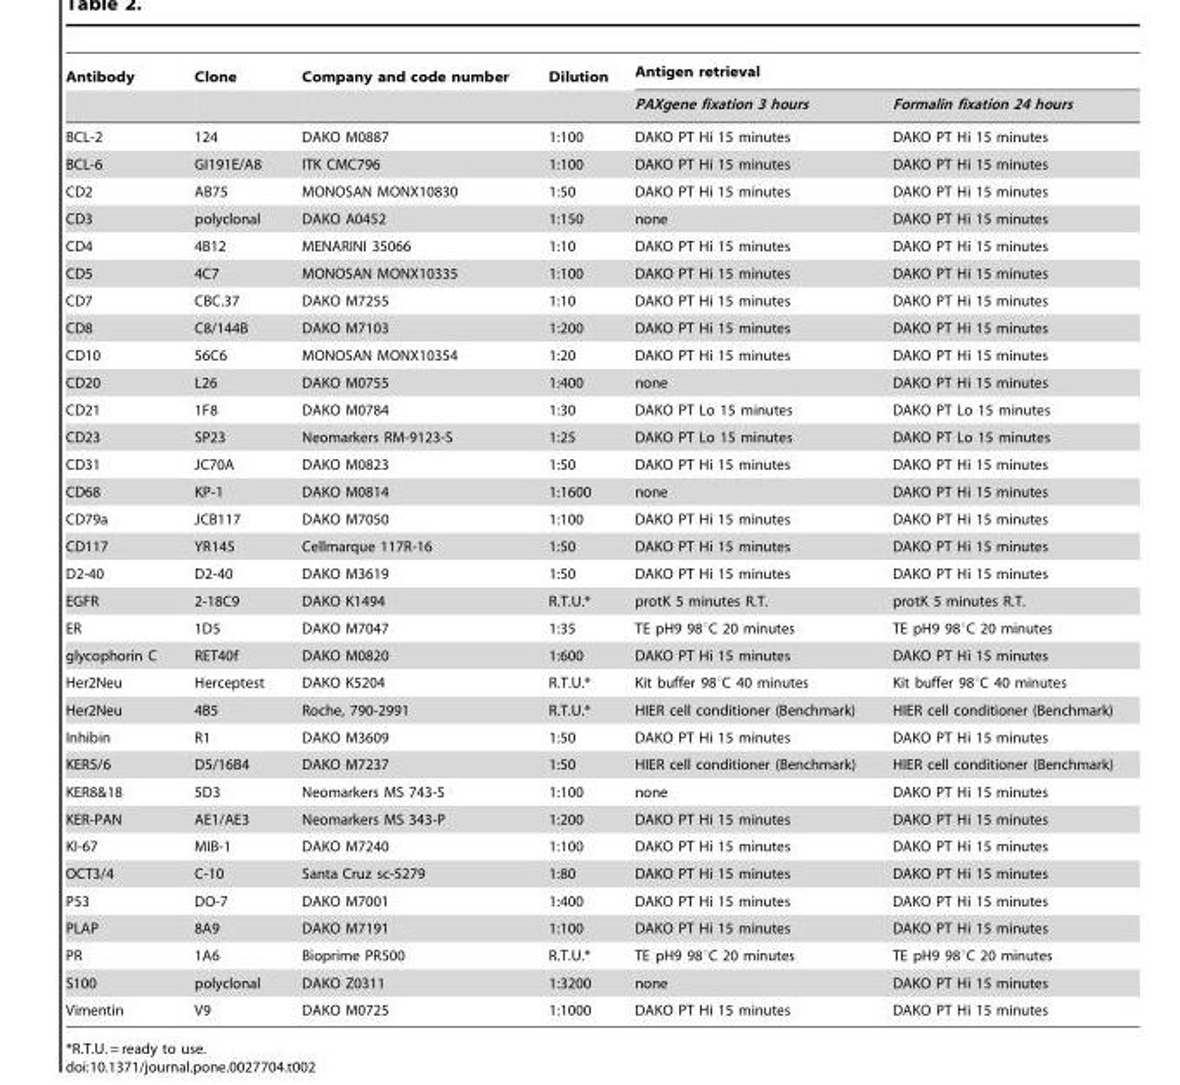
<table><thead><tr><td rowspan="2">Antibody</td><td rowspan="2">Clone</td><td rowspan="2">Company and code number</td><td rowspan="2">Dilution</td><td colspan="2">Antigen retrieval</td></tr><tr><td>PAXgene fixation 3 hours</td><td>Formalin fixation 24 hours</td></tr></thead><tbody><tr><td>BCL-2</td><td>124</td><td>DAKO M0887</td><td>1:100</td><td>DAKO PT Hi 15 minutes</td><td>DAKO PT Hi 15 minutes</td></tr><tr><td>BCL-6</td><td>GI191E/A8</td><td>ITK CMC796</td><td>1:100</td><td>DAKO PT Hi 15 minutes</td><td>DAKO PT Hi 15 minutes</td></tr><tr><td>CD2</td><td>AB75</td><td>MONOSAN MONX10830</td><td>1:50</td><td>DAKO PT Hi 15 minutes</td><td>DAKO PT Hi 15 minutes</td></tr><tr><td>CD3</td><td>polyclonal</td><td>DAKO A0452</td><td>1:150</td><td>none</td><td>DAKO PT Hi 15 minutes</td></tr><tr><td>CD4</td><td>4B12</td><td>MENARINI 35066</td><td>1:10</td><td>DAKO PT Hi 15 minutes</td><td>DAKO PT Hi 15 minutes</td></tr><tr><td>CD5</td><td>4C7</td><td>MONOSAN MONX10335</td><td>1:100</td><td>DAKO PT Hi 15 minutes</td><td>DAKO PT Hi 15 minutes</td></tr><tr><td>CD7</td><td>CBC.37</td><td>DAKO M7255</td><td>1:10</td><td>DAKO PT Hi 15 minutes</td><td>DAKO PT Hi 15 minutes</td></tr><tr><td>CD8</td><td>C8/144B</td><td>DAKO M7103</td><td>1:200</td><td>DAKO PT Hi 15 minutes</td><td>DAKO PT Hi 15 minutes</td></tr><tr><td>CD10</td><td>56C6</td><td>MONOSAN MONX10354</td><td>1:20</td><td>DAKO PT Hi 15 minutes</td><td>DAKO PT Hi 15 minutes</td></tr><tr><td>CD20</td><td>L26</td><td>DAKO M0755</td><td>1:400</td><td>none</td><td>DAKO PT Hi 15 minutes</td></tr><tr><td>CD21</td><td>1F8</td><td>DAKO M0784</td><td>1:30</td><td>DAKO PT Lo 15 minutes</td><td>DAKO PT Lo 15 minutes</td></tr><tr><td>CD23</td><td>SP23</td><td>Neomarkers RM-9123-S</td><td>1:25</td><td>DAKO PT Lo 15 minutes</td><td>DAKO PT Lo 15 minutes</td></tr><tr><td>CD31</td><td>JC70A</td><td>DAKO M0823</td><td>1:50</td><td>DAKO PT Hi 15 minutes</td><td>DAKO PT Hi 15 minutes</td></tr><tr><td>CD68</td><td>KP-1</td><td>DAKO M0814</td><td>1:1600</td><td>none</td><td>DAKO PT Hi 15 minutes</td></tr><tr><td>CD79a</td><td>JCB117</td><td>DAKO M7050</td><td>1:100</td><td>DAKO PT Hi 15 minutes</td><td>DAKO PT Hi 15 minutes</td></tr><tr><td>CD117</td><td>YR145</td><td>Cellmarque 117R-16</td><td>1:50</td><td>DAKO PT Hi 15 minutes</td><td>DAKO PT Hi 15 minutes</td></tr><tr><td>D2-40</td><td>D2-40</td><td>DAKO M3619</td><td>1:50</td><td>DAKO PT Hi 15 minutes</td><td>DAKO PT Hi 15 minutes</td></tr><tr><td>EGFR</td><td>2-18C9</td><td>DAKO K1494</td><td>R.T.U.*</td><td>protK 5 minutes R.T.</td><td>protK 5 minutes R.T.</td></tr><tr><td>ER</td><td>1D5</td><td>DAKO M7047</td><td>1:35</td><td>TE pH9 98°C 20 minutes</td><td>TE pH9 98°C 20 minutes</td></tr><tr><td>glycophorin C</td><td>RET40f</td><td>DAKO M0820</td><td>1:600</td><td>DAKO PT Hi 15 minutes</td><td>DAKO PT Hi 15 minutes</td></tr><tr><td>Her2Neu</td><td>Herceptest</td><td>DAKO K5204</td><td>R.T.U.*</td><td>Kit buffer 98°C 40 minutes</td><td>Kit buffer 98°C 40 minutes</td></tr><tr><td>Her2Neu</td><td>4B5</td><td>Roche, 790-2991</td><td>R.T.U.*</td><td>HIER cell conditioner (Benchmark)</td><td>HIER cell conditioner (Benchmark)</td></tr><tr><td>Inhibin</td><td>R1</td><td>DAKO M3609</td><td>1:50</td><td>DAKO PT Hi 15 minutes</td><td>DAKO PT Hi 15 minutes</td></tr><tr><td>KER5/6</td><td>D5/16B4</td><td>DAKO M7237</td><td>1:50</td><td>HIER cell conditioner (Benchmark)</td><td>HIER cell conditioner (Benchmark)</td></tr><tr><td>KER8&amp;18</td><td>5D3</td><td>Neomarkers MS 743-S</td><td>1:100</td><td>none</td><td>DAKO PT Hi 15 minutes</td></tr><tr><td>KER-PAN</td><td>AE1/AE3</td><td>Neomarkers MS 343-P</td><td>1:200</td><td>DAKO PT Hi 15 minutes</td><td>DAKO PT Hi 15 minutes</td></tr><tr><td>KI-67</td><td>MIB-1</td><td>DAKO M7240</td><td>1:100</td><td>DAKO PT Hi 15 minutes</td><td>DAKO PT Hi 15 minutes</td></tr><tr><td>OCT3/4</td><td>C-10</td><td>Santa Cruz sc-5279</td><td>1:80</td><td>DAKO PT Hi 15 minutes</td><td>DAKO PT Hi 15 minutes</td></tr><tr><td>P53</td><td>DO-7</td><td>DAKO M7001</td><td>1:400</td><td>DAKO PT Hi 15 minutes</td><td>DAKO PT Hi 15 minutes</td></tr><tr><td>PLAP</td><td>8A9</td><td>DAKO M7191</td><td>1:100</td><td>DAKO PT Hi 15 minutes</td><td>DAKO PT Hi 15 minutes</td></tr><tr><td>PR</td><td>1A6</td><td>Bioprime PR500</td><td>R.T.U.*</td><td>TE pH9 98°C 20 minutes</td><td>TE pH9 98°C 20 minutes</td></tr><tr><td>S100</td><td>polyclonal</td><td>DAKO Z0311</td><td>1:3200</td><td>none</td><td>DAKO PT Hi 15 minutes</td></tr><tr><td>Vimentin</td><td>V9</td><td>DAKO M0725</td><td>1:1000</td><td>DAKO PT Hi 15 minutes</td><td>DAKO PT Hi 15 minutes</td></tr></tbody></table>